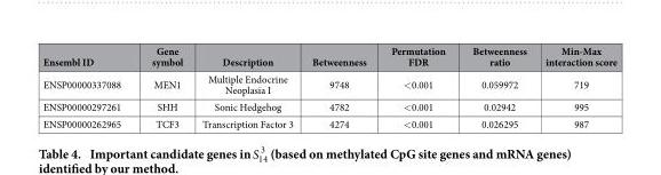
<table><thead><tr><td>Ensembl ID</td><td>Gene symbol</td><td>Description</td><td>Betweenness</td><td>Permutation FDR</td><td>Betweenness ratio</td><td>Min-Max interaction score</td></tr></thead><tbody><tr><td>ENSP00000337088</td><td>MEN1</td><td>Multiple Endocrine Neoplasia I</td><td>9748</td><td>&lt; 0.001</td><td>0.059972</td><td>719</td></tr><tr><td>ENSP00000297261</td><td>SHH</td><td>Sonic Hedgehog</td><td>4782</td><td>&lt; 0.001</td><td>0.02942</td><td>995</td></tr><tr><td>ENSP00000262965</td><td>TCF3</td><td>Transcription Factor 3</td><td>4274</td><td>&lt; 0.001</td><td>0.026295</td><td>987</td></tr></tbody></table>